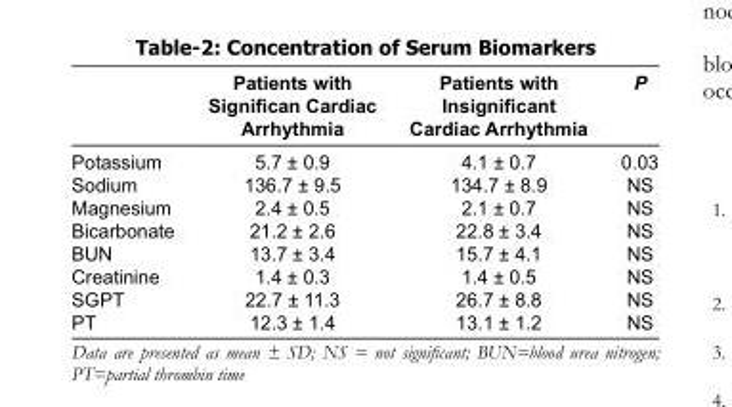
<table><thead><tr><td></td><td>Patients with Significan Cardiac Arrhythmia</td><td>Patients with Insignificant Cardiac Arrhythmia</td><td>P</td></tr></thead><tbody><tr><td>Potassium</td><td>5.7 ± 0.9</td><td>4.1 ± 0.7</td><td>0.03</td></tr><tr><td>Sodium</td><td>136.7 ± 9.5</td><td>134.7 ± 8.9</td><td>NS</td></tr><tr><td>Magnesium</td><td>2.4 ± 0.5</td><td>2.1 ± 0.7</td><td>NS</td></tr><tr><td>Bicarbonate</td><td>21.2 ± 2.6</td><td>22.8 ± 3.4</td><td>NS</td></tr><tr><td>BUN</td><td>13.7 ± 3.4</td><td>15.7 ± 4.1</td><td>NS</td></tr><tr><td>Creatinine</td><td>1.4 ± 0.3</td><td>1.4 ± 0.5</td><td>NS</td></tr><tr><td>SGPT</td><td>22.7 ± 11.3</td><td>26.7 ± 8.8</td><td>NS</td></tr><tr><td>PT</td><td>12.3 ± 1.4</td><td>13.1 ± 1.2</td><td>NS</td></tr></tbody></table>